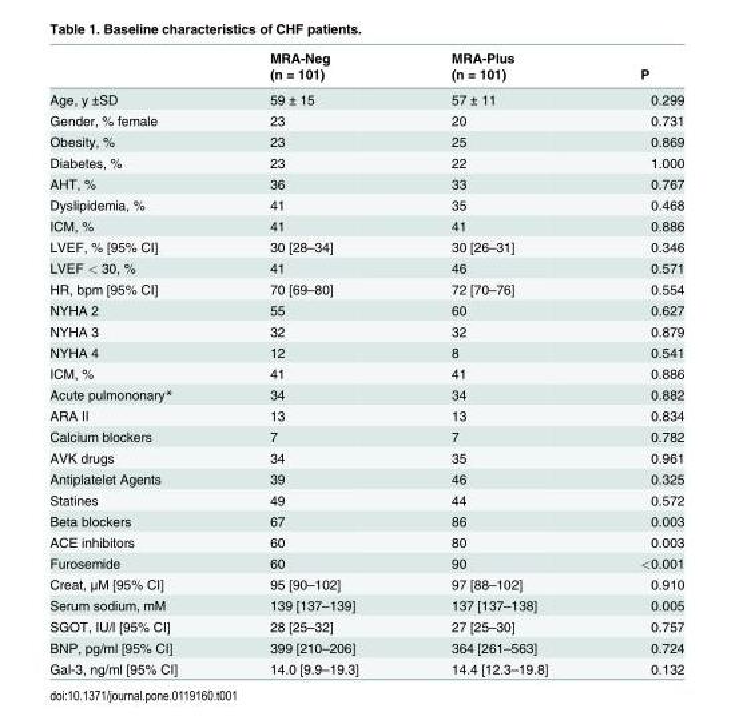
<table><thead><tr><td rowspan="2"></td><td rowspan="2">MRA-Neg (n = 101)</td><td rowspan="2">MRA-Plus (n = 101)</td><td rowspan="2">P</td></tr><tr></tr></thead><tbody><tr><td>Age, y ±SD</td><td>59 ± 15</td><td>57 ± 11</td><td>0.299</td></tr><tr><td>Gender, % female</td><td>23</td><td>20</td><td>0.731</td></tr><tr><td>Obesity, %</td><td>23</td><td>25</td><td>0.869</td></tr><tr><td>Diabetes, %</td><td>23</td><td>22</td><td>1.000</td></tr><tr><td>AHT, %</td><td>36</td><td>33</td><td>0.767</td></tr><tr><td>Dyslipidemia, %</td><td>41</td><td>35</td><td>0.468</td></tr><tr><td>ICM, %</td><td>41</td><td>41</td><td>0.886</td></tr><tr><td>LVEF, % [95% CI]</td><td>30 [28–34]</td><td>30 [26–31]</td><td>0.346</td></tr><tr><td>LVEF &lt; 30, %</td><td>41</td><td>46</td><td>0.571</td></tr><tr><td>HR, bpm [95% CI]</td><td>70 [69–80]</td><td>72 [70–76]</td><td>0.554</td></tr><tr><td>NYHA 2</td><td>55</td><td>60</td><td>0.627</td></tr><tr><td>NYHA 3</td><td>32</td><td>32</td><td>0.879</td></tr><tr><td>NYHA 4</td><td>12</td><td>8</td><td>0.541</td></tr><tr><td>ICM, %</td><td>41</td><td>41</td><td>0.886</td></tr><tr><td>Acute pulmononary*</td><td>34</td><td>34</td><td>0.882</td></tr><tr><td>ARA II</td><td>13</td><td>13</td><td>0.834</td></tr><tr><td>Calcium blockers</td><td>7</td><td>7</td><td>0.782</td></tr><tr><td>AVK drugs</td><td>34</td><td>35</td><td>0.961</td></tr><tr><td>Antiplatelet Agents</td><td>39</td><td>46</td><td>0.325</td></tr><tr><td>Statines</td><td>49</td><td>44</td><td>0.572</td></tr><tr><td>Beta blockers</td><td>67</td><td>86</td><td>0.003</td></tr><tr><td>ACE inhibitors</td><td>60</td><td>80</td><td>0.003</td></tr><tr><td>Furosemide</td><td>60</td><td>90</td><td>&lt;0.001</td></tr><tr><td>Creat, μM [95% CI]</td><td>95 [90–102]</td><td>97 [88–102]</td><td>0.910</td></tr><tr><td>Serum sodium, mM</td><td>139 [137–139]</td><td>137 [137–138]</td><td>0.005</td></tr><tr><td>SGOT, IU/l [95% CI]</td><td>28 [25–32]</td><td>27 [25–30]</td><td>0.757</td></tr><tr><td>BNP, pg/ml [95% CI]</td><td>399 [210–206]</td><td>364 [261–563]</td><td>0.724</td></tr><tr><td>Gal-3, ng/ml [95% CI]</td><td>14.0 [9.9–19.3]</td><td>14.4 [12.3–19.8]</td><td>0.132</td></tr></tbody></table>